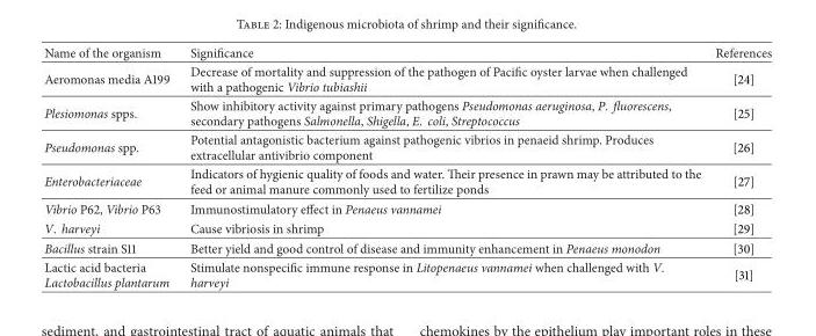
<table><thead><tr><td>Name of the organism</td><td>Significance</td><td>References</td></tr></thead><tbody><tr><td>Aeromonas media A199</td><td>Decrease of mortality and suppression of the pathogen of Pacific oyster larvae when challenged with a pathogenic Vibrio tubiashii</td><td>[24]</td></tr><tr><td>Plesiomonas spps.</td><td>Show inhibitory activity against primary pathogens Pseudomonas aeruginosa, P. fluorescens, secondary pathogens Salmonella, Shigella, E. coli, Streptococcus</td><td>[25]</td></tr><tr><td>Pseudomonas spp.</td><td>Potential antagonistic bacterium against pathogenic vibrios in penaeid shrimp. Produces extracellular antivibrio component</td><td>[26]</td></tr><tr><td>Enterobacteriaceae</td><td>Indicators of hygienic quality of foods and water. Their presence in prawn may be attributed to the feed or animal manure commonly used to fertilize ponds</td><td>[27]</td></tr><tr><td>Vibrio P62, Vibrio P63</td><td>Immunostimulatory effect in Penaeus vannamei</td><td>[28]</td></tr><tr><td>V. harveyi</td><td>Cause vibriosis in shrimp</td><td>[29]</td></tr><tr><td>Bacillus strain S11</td><td>Better yield and good control of disease and immunity enhancement in Penaeus monodon</td><td>[30]</td></tr><tr><td>Lactic acid bacteria Lactobacillus plantarum</td><td>Stimulate nonspecific immune response in Litopenaeus vannamei when challenged with V. harveyi</td><td>[31]</td></tr></tbody></table>